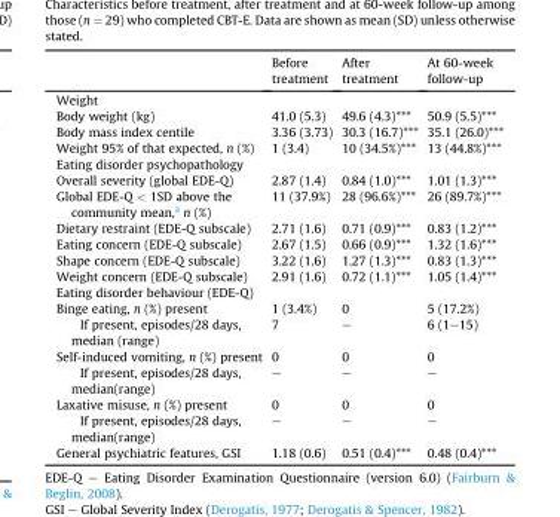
<table><thead><tr><td></td><td>Before treatment</td><td>After treatment</td><td>At 60-week follow-up</td></tr></thead><tbody><tr><td colspan="4">Weight</td></tr><tr><td>Body weight (kg)</td><td>41.0 (5.3)</td><td>49.6 (4.3)***</td><td>50.9 (5.5)***</td></tr><tr><td>Body mass index centile</td><td>3.36 (3.73)</td><td>30.3 (16.7)***</td><td>35.1 (26.0)***</td></tr><tr><td>Weight 95% of that expected, n (%)</td><td>1 (3.4)</td><td>10 (34.5%)***</td><td>13 (44.8%)***</td></tr><tr><td colspan="4">Eating disorder psychopathology</td></tr><tr><td>Overall severity (global EDE-Q)</td><td>2.87 (1.4)</td><td>0.84 (1.0)***</td><td>1.01 (1.3)***</td></tr><tr><td>Global EDE-Q &lt; 1SD above the community mean,<sup>a</sup> n (%)</td><td>11 (37.9%)</td><td>28 (96.6%)***</td><td>26 (89.7%)***</td></tr><tr><td>Dietary restraint (EDE-Q subscale)</td><td>2.71 (1.6)</td><td>0.71 (0.9)***</td><td>0.83 (1.2)***</td></tr><tr><td>Eating concern (EDE-Q subscale)</td><td>2.67 (1.5)</td><td>0.66 (0.9)***</td><td>1.32 (1.6)***</td></tr><tr><td>Shape concern (EDE-Q subscale)</td><td>3.22 (1.6)</td><td>1.27 (1.3)***</td><td>0.83 (1.3)***</td></tr><tr><td>Weight concern (EDE-Q subscale)</td><td>2.91 (1.6)</td><td>0.72 (1.1)***</td><td>1.05 (1.4)***</td></tr><tr><td colspan="4">Eating disorder behaviour (EDE-Q)</td></tr><tr><td>Binge eating, n (%) present</td><td>1 (3.4%)</td><td>0</td><td>5 (17.2%)</td></tr><tr><td>If present, episodes/28 days, median (range)</td><td>7</td><td>–</td><td>6 (1–15)</td></tr><tr><td>Self-induced vomiting, n (%) present</td><td>0</td><td>0</td><td>0</td></tr><tr><td>If present, episodes/28 days, median(range)</td><td>–</td><td>–</td><td>–</td></tr><tr><td>Laxative misuse, n (%) present</td><td>0</td><td>0</td><td>0</td></tr><tr><td>If present, episodes/28 days, median(range)</td><td>–</td><td>–</td><td>–</td></tr><tr><td>General psychiatric features, GSI</td><td>1.18 (0.6)</td><td>0.51 (0.4)***</td><td>0.48 (0.4)***</td></tr></tbody></table>